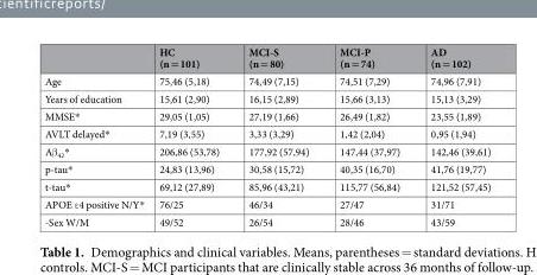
<table><thead><tr><td></td><td>HC (n = 101)</td><td>MCI-S (n = 80)</td><td>MCI-P (n = 74)</td><td>AD (n = 102)</td></tr></thead><tbody><tr><td>Age</td><td>75,46 (5,18)</td><td>74,49 (7,15)</td><td>74,51 (7,29)</td><td>74,96 (7,91)</td></tr><tr><td>Years of education</td><td>15,61 (2,90)</td><td>16,15 (2,89)</td><td>15,66 (3,13)</td><td>15,13 (3,29)</td></tr><tr><td>MMSE*</td><td>29,05 (1,05)</td><td>27,19 (1,66)</td><td>26,49 (1,82)</td><td>23,55 (1,89)</td></tr><tr><td>AVLT delayed*</td><td>7,19 (3,55)</td><td>3,33 (3,29)</td><td>1,42 (2,04)</td><td>0,95 (1,94)</td></tr><tr><td>Aβ<sub>42</sub>*</td><td>206,86 (53,78)</td><td>177,92 (57,94)</td><td>147,44 (37,97)</td><td>142,46 (39,61)</td></tr><tr><td>p-tau*</td><td>24,83 (13,96)</td><td>30,58 (15,72)</td><td>40,35 (16,70)</td><td>41,76 (19,77)</td></tr><tr><td>t-tau*</td><td>69,12 (27,89)</td><td>85,96 (43,21)</td><td>115,77 (56,84)</td><td>121,52 (57,45)</td></tr><tr><td>APOE ε4 positive N/Y*</td><td>76/25</td><td>46/34</td><td>27/47</td><td>31/71</td></tr><tr><td>-Sex W/M</td><td>49/52</td><td>26/54</td><td>28/46</td><td>43/59</td></tr></tbody></table>